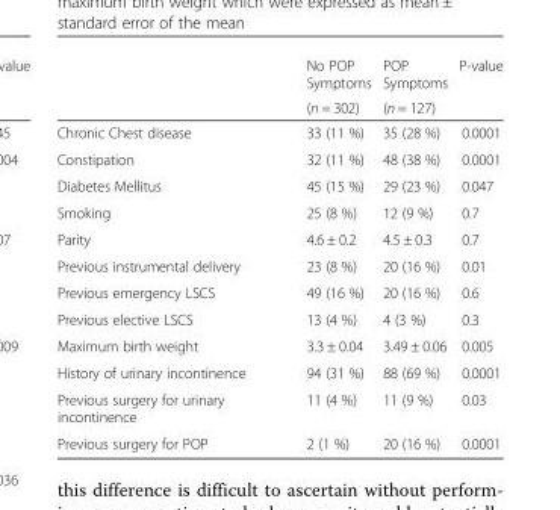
<table><thead><tr><td rowspan="2"></td><td rowspan="2">No POP Symptoms (n = 302)</td><td rowspan="2">POP Symptoms (n = 127)</td><td rowspan="2">P-value</td></tr><tr></tr></thead><tbody><tr><td>Chronic Chest disease</td><td>33 (11 %)</td><td>35 (28 %)</td><td>0.0001</td></tr><tr><td>Constipation</td><td>32 (11 %)</td><td>48 (38 %)</td><td>0.0001</td></tr><tr><td>Diabetes Mellitus</td><td>45 (15 %)</td><td>29 (23 %)</td><td>0.047</td></tr><tr><td>Smoking</td><td>25 (8 %)</td><td>12 (9 %)</td><td>0.7</td></tr><tr><td>Parity</td><td>4.6 ± 0.2</td><td>4.5 ± 0.3</td><td>0.7</td></tr><tr><td>Previous instrumental delivery</td><td>23 (8 %)</td><td>20 (16 %)</td><td>0.01</td></tr><tr><td>Previous emergency LSCS</td><td>49 (16 %)</td><td>20 (16 %)</td><td>0.6</td></tr><tr><td>Previous elective LSCS</td><td>13 (4 %)</td><td>4 (3 %)</td><td>0.3</td></tr><tr><td>Maximum birth weight</td><td>3.3 ± 0.04</td><td>3.49 ± 0.06</td><td>0.005</td></tr><tr><td>History of urinary incontinence</td><td>94 (31 %)</td><td>88 (69 %)</td><td>0.0001</td></tr><tr><td>Previous surgery for urinary incontinence</td><td>11 (4 %)</td><td>11 (9 %)</td><td>0.03</td></tr><tr><td>Previous surgery for POP</td><td>2 (1 %)</td><td>20 (16 %)</td><td>0.0001</td></tr></tbody></table>